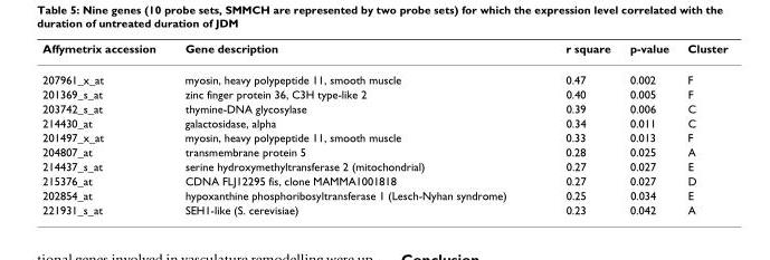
<table><thead><tr><td>Affymetrix accession</td><td>Gene description</td><td>r square</td><td>p-value</td><td>Cluster</td></tr></thead><tbody><tr><td>207961_x_at</td><td>myosin, heavy polypeptide 11, smooth muscle</td><td>0.47</td><td>0.002</td><td>F</td></tr><tr><td>201369_s_at</td><td>zinc finger protein 36, C3H type-like 2</td><td>0.40</td><td>0.005</td><td>F</td></tr><tr><td>203742_s_at</td><td>thymine-DNA glycosylase</td><td>0.39</td><td>0.006</td><td>C</td></tr><tr><td>214430_at</td><td>galactosidase, alpha</td><td>0.34</td><td>0.011</td><td>C</td></tr><tr><td>201497_x_at</td><td>myosin, heavy polypeptide 11, smooth muscle</td><td>0.33</td><td>0.013</td><td>F</td></tr><tr><td>204807_at</td><td>transmembrane protein 5</td><td>0.28</td><td>0.025</td><td>A</td></tr><tr><td>214437_s_at</td><td>serine hydroxymethyltransferase 2 (mitochondrial)</td><td>0.27</td><td>0.027</td><td>E</td></tr><tr><td>215376_at</td><td>CDNA FLJ12295 fis, clone MAMMA1001818</td><td>0.27</td><td>0.027</td><td>D</td></tr><tr><td>202854_at</td><td>hypoxanthine phosphoribosyltransferase 1 (Lesch-Nyhan syndrome)</td><td>0.25</td><td>0.034</td><td>E</td></tr><tr><td>221931_s_at</td><td>SEH1-like (S. cerevisiae)</td><td>0.23</td><td>0.042</td><td>A</td></tr></tbody></table>